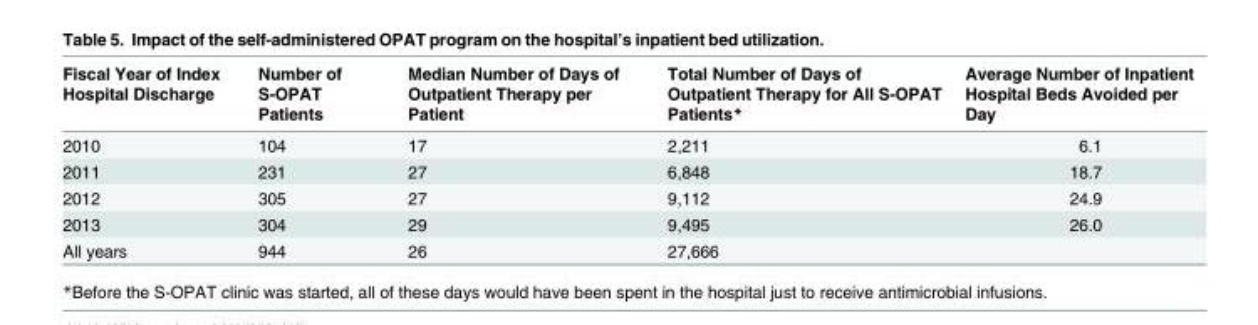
<table><thead><tr><td>Fiscal Year of Index Hospital Discharge</td><td>Number of S-OPAT Patients</td><td>Median Number of Days of Outpatient Therapy per Patient</td><td>Total Number of Days of Outpatient Therapy for All S-OPAT Patients*</td><td>Average Number of Inpatient Hospital Beds Avoided per Day</td></tr></thead><tbody><tr><td>2010</td><td>104</td><td>17</td><td>2,211</td><td>6.1</td></tr><tr><td>2011</td><td>231</td><td>27</td><td>6,848</td><td>18.7</td></tr><tr><td>2012</td><td>305</td><td>27</td><td>9,112</td><td>24.9</td></tr><tr><td>2013</td><td>304</td><td>29</td><td>9,495</td><td>26.0</td></tr><tr><td>All years</td><td>944</td><td>26</td><td>27,666</td><td></td></tr></tbody></table>